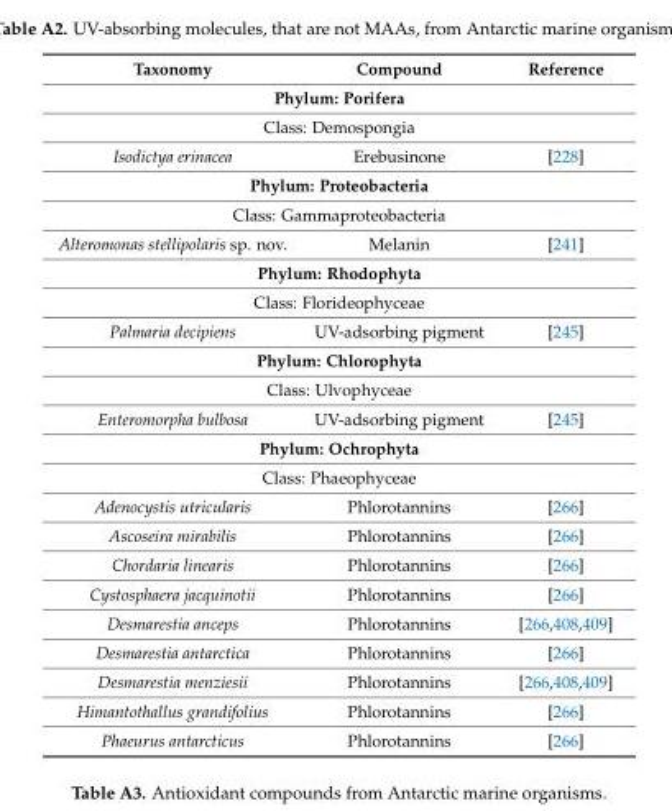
<table><thead><tr><td>Taxonomy</td><td>Compound</td><td>Reference</td></tr></thead><tbody><tr><td colspan="3">Phylum: Porifera</td></tr><tr><td colspan="3">Class: Demospongia</td></tr><tr><td>Isodictya erinacea</td><td>Erebusinone</td><td>[228]</td></tr><tr><td colspan="3">Phylum: Proteobacteria</td></tr><tr><td colspan="3">Class: Gammaproteobacteria</td></tr><tr><td>Alteromonas stellipolaris sp. nov.</td><td>Melanin</td><td>[241]</td></tr><tr><td colspan="3">Phylum: Rhodophyta</td></tr><tr><td colspan="3">Class: Florideophyceae</td></tr><tr><td>Palmaria decipiens</td><td>UV-adsorbing pigment</td><td>[245]</td></tr><tr><td colspan="3">Phylum: Chlorophyta</td></tr><tr><td colspan="3">Class: Ulvophyceae</td></tr><tr><td>Enteromorpha bulbosa</td><td>UV-adsorbing pigment</td><td>[245]</td></tr><tr><td colspan="3">Phylum: Ochrophyta</td></tr><tr><td colspan="3">Class: Phaeophyceae</td></tr><tr><td>Adenocystis utricularis</td><td>Phlorotannins</td><td>[266]</td></tr><tr><td>Ascoseira mirabilis</td><td>Phlorotannins</td><td>[266]</td></tr><tr><td>Chordaria linearis</td><td>Phlorotannins</td><td>[266]</td></tr><tr><td>Cystosphaera jacquinotii</td><td>Phlorotannins</td><td>[266]</td></tr><tr><td>Desmarestia anceps</td><td>Phlorotannins</td><td>[266,408,409]</td></tr><tr><td>Desmarestia antarctica</td><td>Phlorotannins</td><td>[266]</td></tr><tr><td>Desmarestia menziesii</td><td>Phlorotannins</td><td>[266,408,409]</td></tr><tr><td>Himantothallus grandifolius</td><td>Phlorotannins</td><td>[266]</td></tr><tr><td>Phaeurus antarcticus</td><td>Phlorotannins</td><td>[266]</td></tr></tbody></table>